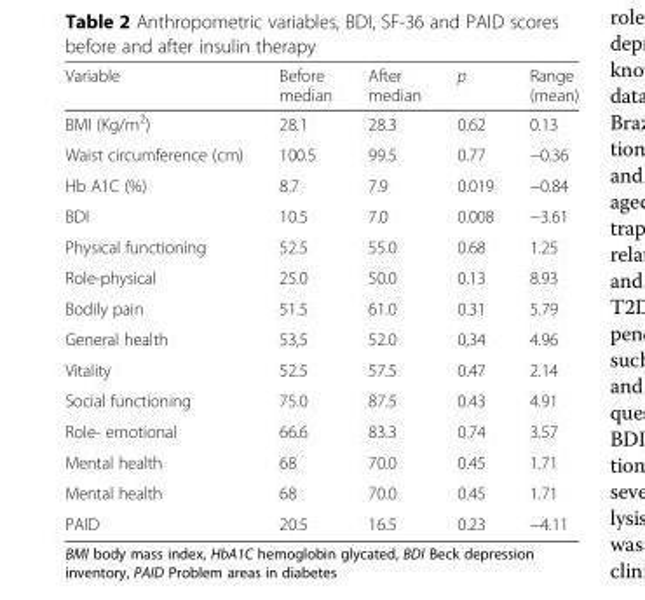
<table><thead><tr><td>Variable</td><td>Before median</td><td>After median</td><td>p</td><td>Range (mean)</td></tr></thead><tbody><tr><td>BMI (Kg/m<sup>2</sup>)</td><td>28.1</td><td>28.3</td><td>0.62</td><td>0.13</td></tr><tr><td>Waist circumference (cm)</td><td>100.5</td><td>99.5</td><td>0.77</td><td>−0.36</td></tr><tr><td>Hb A1C (%)</td><td>8.7</td><td>7.9</td><td>0.019</td><td>−0.84</td></tr><tr><td>BDI</td><td>10.5</td><td>7.0</td><td>0.008</td><td>−3.61</td></tr><tr><td>Physical functioning</td><td>52.5</td><td>55.0</td><td>0.68</td><td>1.25</td></tr><tr><td>Role-physical</td><td>25.0</td><td>50.0</td><td>0.13</td><td>8.93</td></tr><tr><td>Bodily pain</td><td>51.5</td><td>61.0</td><td>0.31</td><td>5.79</td></tr><tr><td>General health</td><td>53,5</td><td>52.0</td><td>0,34</td><td>4.96</td></tr><tr><td>Vitality</td><td>52.5</td><td>57.5</td><td>0.47</td><td>2.14</td></tr><tr><td>Social functioning</td><td>75.0</td><td>87.5</td><td>0.43</td><td>4.91</td></tr><tr><td>Role- emotional</td><td>66.6</td><td>83.3</td><td>0.74</td><td>3.57</td></tr><tr><td>Mental health</td><td>68</td><td>70.0</td><td>0.45</td><td>1.71</td></tr><tr><td>Mental health</td><td>68</td><td>70.0</td><td>0.45</td><td>1.71</td></tr><tr><td>PAID</td><td>20.5</td><td>16.5</td><td>0.23</td><td>−4.11</td></tr></tbody></table>